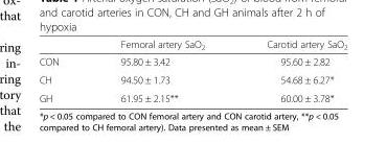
<table><thead><tr><td></td><td>Femoral artery SaO<sub>2</sub></td><td>Carotid artery SaO<sub>2</sub></td></tr></thead><tbody><tr><td>CON</td><td>95.80 ± 3.42</td><td>95.60 ± 2.82</td></tr><tr><td>CH</td><td>94.50 ± 1.73</td><td>54.68 ± 6.27*</td></tr><tr><td>GH</td><td>61.95 ± 2.15**</td><td>60.00 ± 3.78*</td></tr></tbody></table>